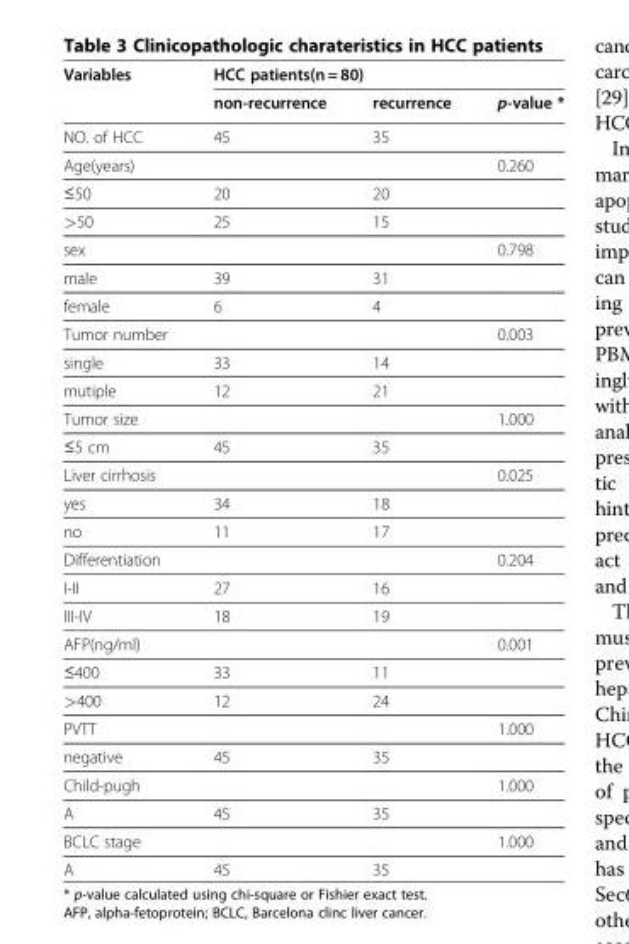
<table><thead><tr><td rowspan="2">Variables</td><td colspan="3">HCC patients(n = 80)</td></tr><tr><td>non-recurrence</td><td>recurrence</td><td>p-value *</td></tr></thead><tbody><tr><td>NO. of HCC</td><td>45</td><td>35</td><td></td></tr><tr><td>Age(years)</td><td></td><td></td><td>0.260</td></tr><tr><td>≤50</td><td>20</td><td>20</td><td></td></tr><tr><td>&gt;50</td><td>25</td><td>15</td><td></td></tr><tr><td>sex</td><td></td><td></td><td>0.798</td></tr><tr><td>male</td><td>39</td><td>31</td><td></td></tr><tr><td>female</td><td>6</td><td>4</td><td></td></tr><tr><td>Tumor number</td><td></td><td></td><td>0.003</td></tr><tr><td>single</td><td>33</td><td>14</td><td></td></tr><tr><td>mutiple</td><td>12</td><td>21</td><td></td></tr><tr><td>Tumor size</td><td></td><td></td><td>1.000</td></tr><tr><td>≤5 cm</td><td>45</td><td>35</td><td></td></tr><tr><td>Liver cirrhosis</td><td></td><td></td><td>0.025</td></tr><tr><td>yes</td><td>34</td><td>18</td><td></td></tr><tr><td>no</td><td>11</td><td>17</td><td></td></tr><tr><td>Differentiation</td><td></td><td></td><td>0.204</td></tr><tr><td>I-II</td><td>27</td><td>16</td><td></td></tr><tr><td>III-IV</td><td>18</td><td>19</td><td></td></tr><tr><td>AFP(ng/ml)</td><td></td><td></td><td>0.001</td></tr><tr><td>≤400</td><td>33</td><td>11</td><td></td></tr><tr><td>&gt;400</td><td>12</td><td>24</td><td></td></tr><tr><td>PVTT</td><td></td><td></td><td>1.000</td></tr><tr><td>negative</td><td>45</td><td>35</td><td></td></tr><tr><td>Child-pugh</td><td></td><td></td><td>1.000</td></tr><tr><td>A</td><td>45</td><td>35</td><td></td></tr><tr><td>BCLC stage</td><td></td><td></td><td>1.000</td></tr><tr><td>A</td><td>45</td><td>35</td><td></td></tr></tbody></table>